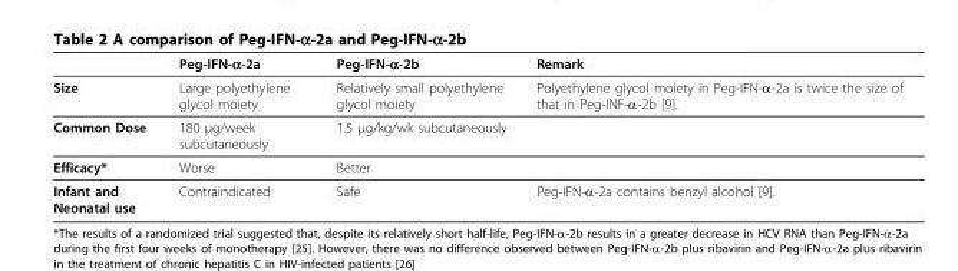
<table><thead><tr><td></td><td>Peg-IFN-α-2a</td><td>Peg-IFN-α-2b</td><td>Remark</td></tr></thead><tbody><tr><td>Size</td><td>Large polyethylene glycol moiety</td><td>Relatively small polyethylene glycol moiety</td><td>Polyethylene glycol moiety in Peg-IFN-α-2a is twice the size of that in Peg-INF-α-2b [9].</td></tr><tr><td>Common Dose</td><td>180 μg/week subcutaneously</td><td>1.5 μg/kg/wk subcutaneously</td><td></td></tr><tr><td>Efficacy*</td><td>Worse</td><td>Better</td><td></td></tr><tr><td>Infant and Neonatal use</td><td>Contraindicated</td><td>Safe</td><td>Peg-IFN-α-2a contains benzyl alcohol [9].</td></tr></tbody></table>